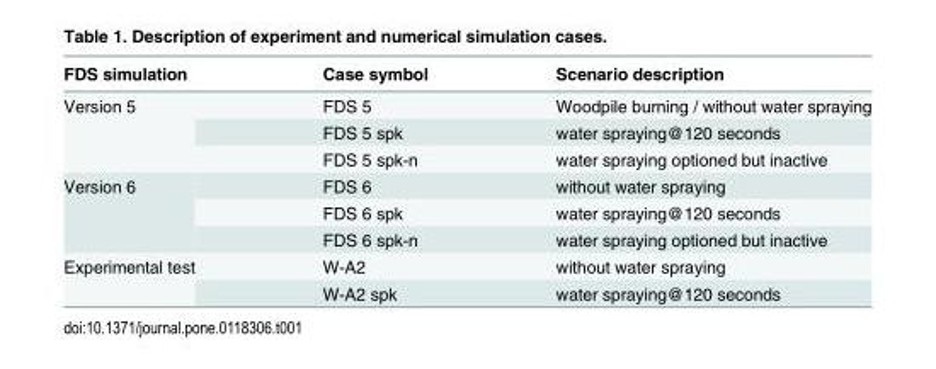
<table><thead><tr><td>FDS simulation</td><td>Case symbol</td><td>Scenario description</td></tr></thead><tbody><tr><td rowspan="3">Version 5</td><td>FDS 5</td><td>Woodpile burning / without water spraying</td></tr><tr><td>FDS 5 spk</td><td>water spraying@120 seconds</td></tr><tr><td>FDS 5 spk-n</td><td>water spraying optioned but inactive</td></tr><tr><td rowspan="3">Version 6</td><td>FDS 6</td><td>without water spraying</td></tr><tr><td>FDS 6 spk</td><td>water spraying@120 seconds</td></tr><tr><td>FDS 6 spk-n</td><td>water spraying optioned but inactive</td></tr><tr><td rowspan="2">Experimental test</td><td>W-A2</td><td>without water spraying</td></tr><tr><td>W-A2 spk</td><td>water spraying@120 seconds</td></tr></tbody></table>